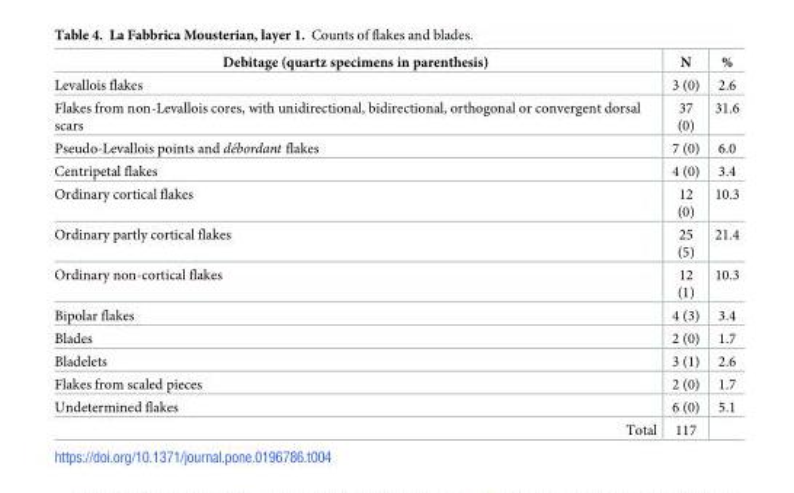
<table><thead><tr><td>Debitage (quartz specimens in parenthesis)</td><td>N</td><td>%</td></tr></thead><tbody><tr><td>Levallois flakes</td><td>3 (0)</td><td>2.6</td></tr><tr><td>Flakes from non-Levallois cores, with unidirectional, bidirectional, orthogonal or convergent dorsal scars</td><td>37 (0)</td><td>31.6</td></tr><tr><td>Pseudo-Levallois points and débordant flakes</td><td>7 (0)</td><td>6.0</td></tr><tr><td>Centripetal flakes</td><td>4 (0)</td><td>3.4</td></tr><tr><td>Ordinary cortical flakes</td><td>12 (0)</td><td>10.3</td></tr><tr><td>Ordinary partly cortical flakes</td><td>25 (5)</td><td>21.4</td></tr><tr><td>Ordinary non-cortical flakes</td><td>12 (1)</td><td>10.3</td></tr><tr><td>Bipolar flakes</td><td>4 (3)</td><td>3.4</td></tr><tr><td>Blades</td><td>2 (0)</td><td>1.7</td></tr><tr><td>Bladelets</td><td>3 (1)</td><td>2.6</td></tr><tr><td>Flakes from scaled pieces</td><td>2 (0)</td><td>1.7</td></tr><tr><td>Undetermined flakes</td><td>6 (0)</td><td>5.1</td></tr><tr><td>Total</td><td>117</td><td></td></tr></tbody></table>